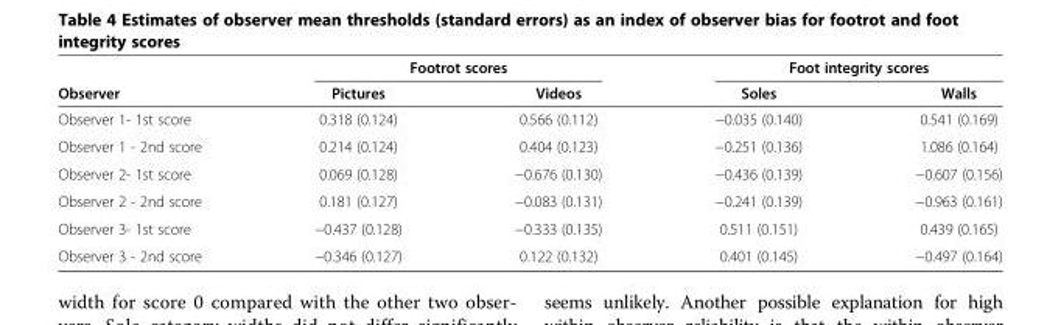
<table><thead><tr><td rowspan="2">Observer</td><td colspan="2">Footrot scores</td><td colspan="2">Foot integrity scores</td></tr><tr><td>Pictures</td><td>Videos</td><td>Soles</td><td>Walls</td></tr></thead><tbody><tr><td>Observer 1- 1st score</td><td>0.318 (0.124)</td><td>0.566 (0.112)</td><td>−0.035 (0.140)</td><td>0.541 (0.169)</td></tr><tr><td>Observer 1 - 2nd score</td><td>0.214 (0.124)</td><td>0.404 (0.123)</td><td>−0.251 (0.136)</td><td>1.086 (0.164)</td></tr><tr><td>Observer 2- 1st score</td><td>0.069 (0.128)</td><td>−0.676 (0.130)</td><td>−0.436 (0.139)</td><td>−0.607 (0.156)</td></tr><tr><td>Observer 2 - 2nd score</td><td>0.181 (0.127)</td><td>−0.083 (0.131)</td><td>−0.241 (0.139)</td><td>−0.963 (0.161)</td></tr><tr><td>Observer 3- 1st score</td><td>−0.437 (0.128)</td><td>−0.333 (0.135)</td><td>0.511 (0.151)</td><td>0.439 (0.165)</td></tr><tr><td>Observer 3 - 2nd score</td><td>−0.346 (0.127)</td><td>0.122 (0.132)</td><td>0.401 (0.145)</td><td>−0.497 (0.164)</td></tr></tbody></table>